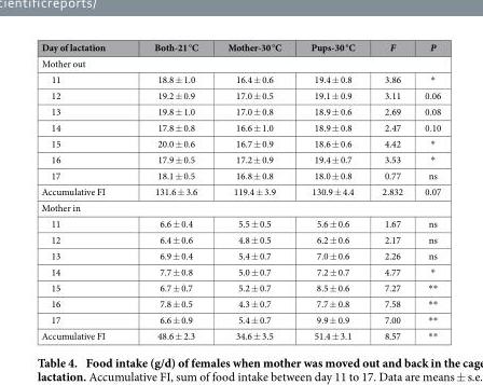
<table><thead><tr><td>Day of lactation</td><td>Both-21 °C</td><td>Mother-30 °C</td><td>Pups-30 °C</td><td>F</td><td>P</td></tr></thead><tbody><tr><td colspan="6">Mother out</td></tr><tr><td>11</td><td>18.8 ± 1.0</td><td>16.4 ± 0.6</td><td>19.4 ± 0.8</td><td>3.86</td><td>*</td></tr><tr><td>12</td><td>19.2 ± 0.9</td><td>17.0 ± 0.5</td><td>19.1 ± 0.9</td><td>3.11</td><td>0.06</td></tr><tr><td>13</td><td>19.8 ± 1.0</td><td>17.0 ± 0.8</td><td>18.9 ± 0.6</td><td>2.69</td><td>0.08</td></tr><tr><td>14</td><td>17.8 ± 0.8</td><td>16.6 ± 1.0</td><td>18.9 ± 0.8</td><td>2.47</td><td>0.10</td></tr><tr><td>15</td><td>20.0 ± 0.6</td><td>16.7 ± 0.9</td><td>18.6 ± 0.6</td><td>4.42</td><td>*</td></tr><tr><td>16</td><td>17.9 ± 0.5</td><td>17.2 ± 0.9</td><td>19.4 ± 0.7</td><td>3.53</td><td>*</td></tr><tr><td>17</td><td>18.1 ± 0.5</td><td>16.8 ± 0.8</td><td>18.0 ± 0.8</td><td>0.77</td><td>ns</td></tr><tr><td>Accumulative FI</td><td>131.6 ± 3.6</td><td>119.4 ± 3.9</td><td>130.9 ± 4.4</td><td>2.832</td><td>0.07</td></tr><tr><td colspan="6">Mother in</td></tr><tr><td>11</td><td>6.6 ± 0.4</td><td>5.5 ± 0.5</td><td>5.6 ± 0.6</td><td>1.67</td><td>ns</td></tr><tr><td>12</td><td>6.4 ± 0.6</td><td>4.8 ± 0.5</td><td>6.2 ± 0.6</td><td>2.17</td><td>ns</td></tr><tr><td>13</td><td>6.9 ± 0.4</td><td>5.4 ± 0.7</td><td>7.0 ± 0.6</td><td>2.26</td><td>ns</td></tr><tr><td>14</td><td>7.7 ± 0.8</td><td>5.0 ± 0.7</td><td>7.2 ± 0.7</td><td>4.77</td><td>*</td></tr><tr><td>15</td><td>6.7 ± 0.7</td><td>5.2 ± 0.7</td><td>8.5 ± 0.6</td><td>7.27</td><td>* *</td></tr><tr><td>16</td><td>7.8 ± 0.5</td><td>4.3 ± 0.7</td><td>7.7 ± 0.8</td><td>7.58</td><td>* *</td></tr><tr><td>17</td><td>6.6 ± 0.9</td><td>5.4 ± 0.7</td><td>9.9 ± 0.9</td><td>7.00</td><td>* *</td></tr><tr><td>Accumulative FI</td><td>48.6 ± 2.3</td><td>34.6 ± 3.5</td><td>51.4 ± 3.1</td><td>8.57</td><td>* *</td></tr></tbody></table>